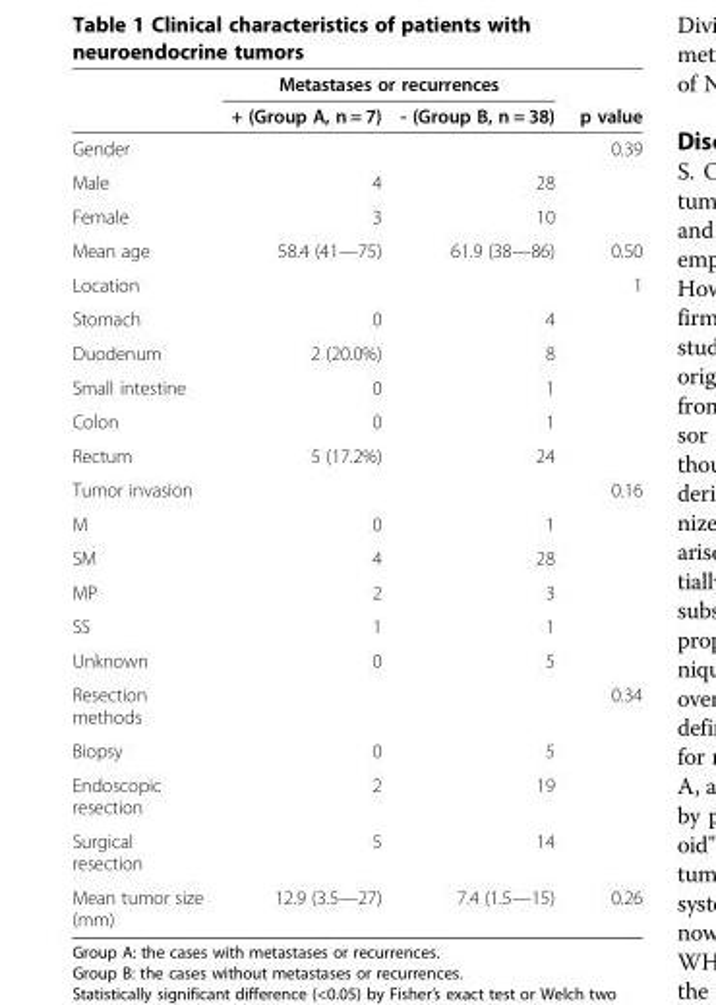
<table><thead><tr><td rowspan="2"></td><td colspan="2">Metastases or recurrences</td><td rowspan="2">p value</td></tr><tr><td>+ (Group A, n = 7)</td><td>- (Group B, n = 38)</td></tr></thead><tbody><tr><td>Gender</td><td></td><td></td><td>0.39</td></tr><tr><td>Male</td><td>4</td><td>28</td><td></td></tr><tr><td>Female</td><td>3</td><td>10</td><td></td></tr><tr><td>Mean age</td><td>58.4 (41—75)</td><td>61.9 (38—86)</td><td>0.50</td></tr><tr><td>Location</td><td></td><td></td><td>1</td></tr><tr><td>Stomach</td><td>0</td><td>4</td><td></td></tr><tr><td>Duodenum</td><td>2 (20.0%)</td><td>8</td><td></td></tr><tr><td>Small intestine</td><td>0</td><td>1</td><td></td></tr><tr><td>Colon</td><td>0</td><td>1</td><td></td></tr><tr><td>Rectum</td><td>5 (17.2%)</td><td>24</td><td></td></tr><tr><td>Tumor invasion</td><td></td><td></td><td>0.16</td></tr><tr><td>M</td><td>0</td><td>1</td><td></td></tr><tr><td>SM</td><td>4</td><td>28</td><td></td></tr><tr><td>MP</td><td>2</td><td>3</td><td></td></tr><tr><td>SS</td><td>1</td><td>1</td><td></td></tr><tr><td>Unknown</td><td>0</td><td>5</td><td></td></tr><tr><td>Resection methods</td><td></td><td></td><td>0.34</td></tr><tr><td>Biopsy</td><td>0</td><td>5</td><td></td></tr><tr><td>Endoscopic resection</td><td>2</td><td>19</td><td></td></tr><tr><td>Surgical resection</td><td>5</td><td>14</td><td></td></tr><tr><td>Mean tumor size (mm)</td><td>12.9 (3.5—27)</td><td>7.4 (1.5—15)</td><td>0.26</td></tr></tbody></table>